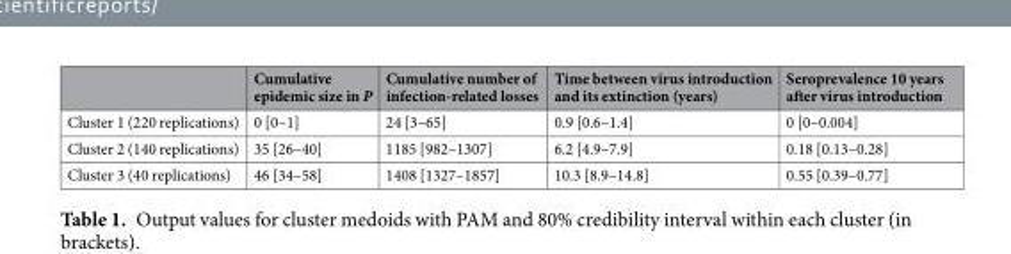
<table><thead><tr><td></td><td>Cumulative epidemic size in P</td><td>Cumulative number of infection-related losses</td><td>Time between virus introduction and its extinction (years)</td><td>Seroprevalence 10 years after virus introduction</td></tr></thead><tbody><tr><td>Cluster 1 (220 replications)</td><td>0 [0–1]</td><td>24 [3–65]</td><td>0.9 [0.6–1.4]</td><td>0 [0–0.004]</td></tr><tr><td>Cluster 2 (140 replications)</td><td>35 [26–40]</td><td>1185 [982–1307]</td><td>6.2 [4.9–7.9]</td><td>0.18 [0.13–0.28]</td></tr><tr><td>Cluster 3 (40 replications)</td><td>46 [34–58]</td><td>1408 [1327–1857]</td><td>10.3 [8.9–14.8]</td><td>0.55 [0.39–0.77]</td></tr></tbody></table>